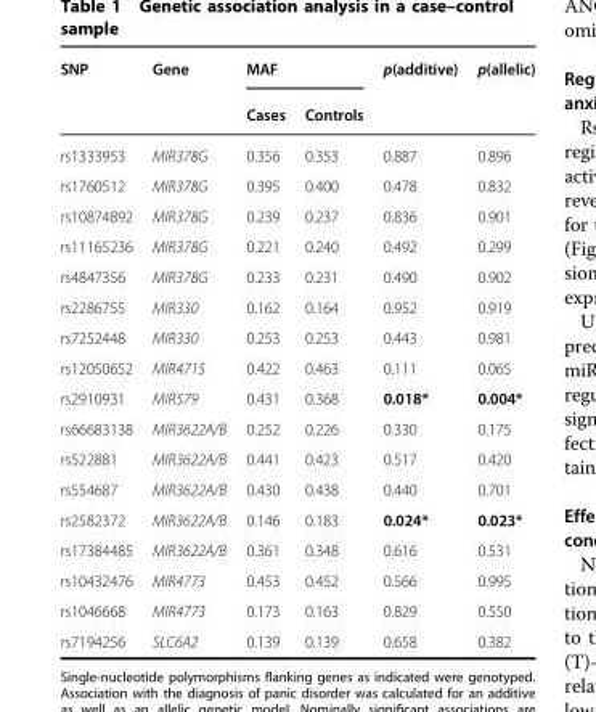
<table><thead><tr><td rowspan="2">SNP</td><td rowspan="2">Gene</td><td colspan="2">MAF</td><td rowspan="2">p(additive)</td><td rowspan="2">p(allelic)</td></tr><tr><td>Cases</td><td>Controls</td></tr></thead><tbody><tr><td>rs1333953</td><td>MIR378G</td><td>0.356</td><td>0.353</td><td>0.887</td><td>0.896</td></tr><tr><td>rs1760512</td><td>MIR378G</td><td>0.395</td><td>0.400</td><td>0.478</td><td>0.832</td></tr><tr><td>rs10874892</td><td>MIR378G</td><td>0.239</td><td>0.237</td><td>0.836</td><td>0.901</td></tr><tr><td>rs11165236</td><td>MIR378G</td><td>0.221</td><td>0.240</td><td>0.492</td><td>0.299</td></tr><tr><td>rs4847356</td><td>MIR378G</td><td>0.233</td><td>0.231</td><td>0.490</td><td>0.902</td></tr><tr><td>rs2286755</td><td>MIR330</td><td>0.162</td><td>0.164</td><td>0.952</td><td>0.919</td></tr><tr><td>rs7252448</td><td>MIR330</td><td>0.253</td><td>0.253</td><td>0.443</td><td>0.981</td></tr><tr><td>rs12050652</td><td>MIR4715</td><td>0.422</td><td>0.463</td><td>0.111</td><td>0.065</td></tr><tr><td>rs2910931</td><td>MIR579</td><td>0.431</td><td>0.368</td><td>0.018*</td><td>0.004*</td></tr><tr><td>rs66683138</td><td>MIR3622A/B</td><td>0.252</td><td>0.226</td><td>0.330</td><td>0.175</td></tr><tr><td>rs522881</td><td>MIR3622A/B</td><td>0.441</td><td>0.423</td><td>0.517</td><td>0.420</td></tr><tr><td>rs554687</td><td>MIR3622A/B</td><td>0.430</td><td>0.438</td><td>0.440</td><td>0.701</td></tr><tr><td>rs2582372</td><td>MIR3622A/B</td><td>0.146</td><td>0.183</td><td>0.024*</td><td>0.023*</td></tr><tr><td>rs17384485</td><td>MIR3622A/B</td><td>0.361</td><td>0.348</td><td>0.616</td><td>0.531</td></tr><tr><td>rs10432476</td><td>MIR4773</td><td>0.453</td><td>0.452</td><td>0.566</td><td>0.995</td></tr><tr><td>rs1046668</td><td>MIR4773</td><td>0.173</td><td>0.163</td><td>0.829</td><td>0.550</td></tr><tr><td>rs7194256</td><td>SLC6A2</td><td>0.139</td><td>0.139</td><td>0.658</td><td>0.382</td></tr></tbody></table>